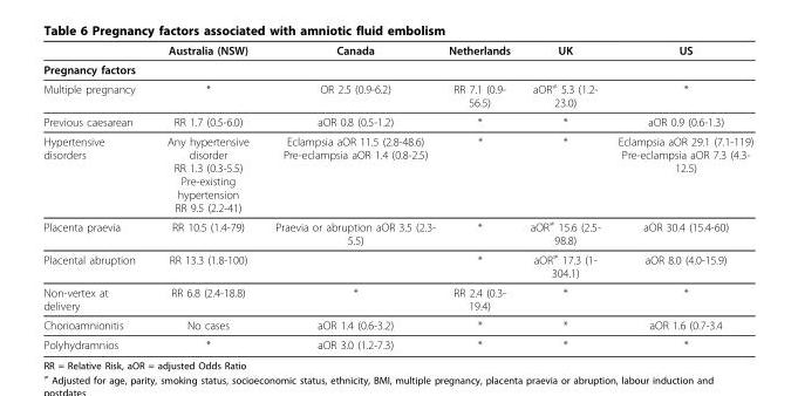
<table><thead><tr><td></td><td>Australia (NSW)</td><td>Canada</td><td>Netherlands</td><td>UK</td><td>US</td></tr></thead><tbody><tr><td colspan="6">Pregnancy factors</td></tr><tr><td>Multiple pregnancy</td><td>*</td><td>OR 2.5 (0.9-6.2)</td><td>RR 7.1 (0.9- 56.5)</td><td>aOR≠ 5.3 (1.2- 23.0)</td><td>*</td></tr><tr><td>Previous caesarean</td><td>RR 1.7 (0.5-6.0)</td><td>aOR 0.8 (0.5-1.2)</td><td>*</td><td>*</td><td>aOR 0.9 (0.6-1.3)</td></tr><tr><td>Hypertensive disorders</td><td>Any hypertensive disorder RR 1.3 (0.3-5.5) Pre-existing hypertension RR 9.5 (2.2-41)</td><td>Eclampsia aOR 11.5 (2.8-48.6) Pre-eclampsia aOR 1.4 (0.8-2.5)</td><td>*</td><td>*</td><td>Eclampsia aOR 29.1 (7.1-119) Pre-eclampsia aOR 7.3 (4.3- 12.5)</td></tr><tr><td>Placenta praevia</td><td>RR 10.5 (1.4-79)</td><td>Praevia or abruption aOR 3.5 (2.3- 5.5)</td><td>*</td><td>aOR≠ 15.6 (2.5- 98.8)</td><td>aOR 30.4 (15.4-60)</td></tr><tr><td>Placental abruption</td><td>RR 13.3 (1.8-100)</td><td></td><td>*</td><td>aOR≠ 17.3 (1- 304.1)</td><td>aOR 8.0 (4.0-15.9)</td></tr><tr><td>Non-vertex at delivery</td><td>RR 6.8 (2.4-18.8)</td><td>*</td><td>RR 2.4 (0.3- 19.4)</td><td>*</td><td>*</td></tr><tr><td>Chorioamnionitis</td><td>No cases</td><td>aOR 1.4 (0.6-3.2)</td><td>*</td><td>*</td><td>aOR 1.6 (0.7-3.4</td></tr><tr><td>Polyhydramnios</td><td>*</td><td>aOR 3.0 (1.2-7.3)</td><td>*</td><td>*</td><td>*</td></tr></tbody></table>